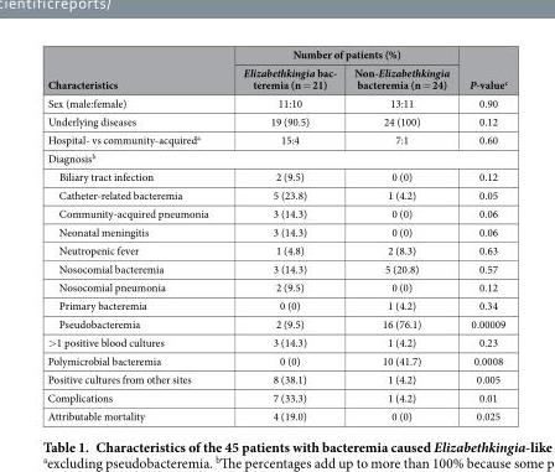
<table><thead><tr><td rowspan="2">Characteristics</td><td colspan="2">Number of patients (%)</td><td rowspan="2">P-value<sup>c</sup></td></tr><tr><td>Elizabethkingia bac- teremia (n = 21)</td><td>Non-Elizabethkingia bacteremia (n = 24)</td></tr></thead><tbody><tr><td>Sex (male:female)</td><td>11:10</td><td>13:11</td><td>0.90</td></tr><tr><td>Underlying diseases</td><td>19 (90.5)</td><td>24 (100)</td><td>0.12</td></tr><tr><td>Hospital- vs community-acquired<sup>a</sup></td><td>15:4</td><td>7:1</td><td>0.60</td></tr><tr><td colspan="4">Diagnosis<sup>b</sup></td></tr><tr><td>Biliary tract infection</td><td>2 (9.5)</td><td>0 (0)</td><td>0.12</td></tr><tr><td>Catheter-related bacteremia</td><td>5 (23.8)</td><td>1 (4.2)</td><td>0.05</td></tr><tr><td>Community-acquired pneumonia</td><td>3 (14.3)</td><td>0 (0)</td><td>0.06</td></tr><tr><td>Neonatal meningitis</td><td>3 (14.3)</td><td>0 (0)</td><td>0.06</td></tr><tr><td>Neutropenic fever</td><td>1 (4.8)</td><td>2 (8.3)</td><td>0.63</td></tr><tr><td>Nosocomial bacteremia</td><td>3 (14.3)</td><td>5 (20.8)</td><td>0.57</td></tr><tr><td>Nosocomial pneumonia</td><td>2 (9.5)</td><td>0 (0)</td><td>0.12</td></tr><tr><td>Primary bacteremia</td><td>0 (0)</td><td>1 (4.2)</td><td>0.34</td></tr><tr><td>Pseudobacteremia</td><td>2 (9.5)</td><td>16 (76.1)</td><td>0.00009</td></tr><tr><td>&gt; 1 positive blood cultures</td><td>3 (14.3)</td><td>1 (4.2)</td><td>0.23</td></tr><tr><td>Polymicrobial bacteremia</td><td>0 (0)</td><td>10 (41.7)</td><td>0.0008</td></tr><tr><td>Positive cultures from other sites</td><td>8 (38.1)</td><td>1 (4.2)</td><td>0.005</td></tr><tr><td>Complications</td><td>7 (33.3)</td><td>1 (4.2)</td><td>0.01</td></tr><tr><td>Attributable mortality</td><td>4 (19.0)</td><td>0 (0)</td><td>0.025</td></tr></tbody></table>